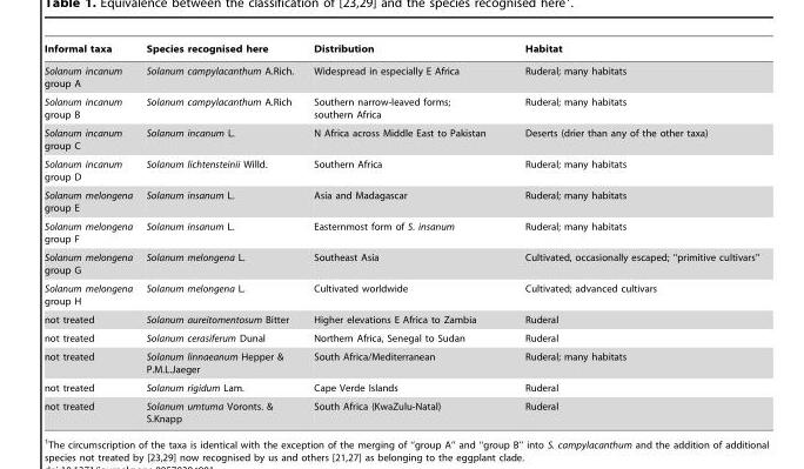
<table><thead><tr><td>Informal taxa</td><td>Species recognised here</td><td>Distribution</td><td>Habitat</td></tr></thead><tbody><tr><td>Solanum incanum group A</td><td>Solanum campylacanthum A.Rich.</td><td>Widespread in especially E Africa</td><td>Ruderal; many habitats</td></tr><tr><td>Solanum incanum group B</td><td>Solanum campylacanthum A.Rich</td><td>Southern narrow-leaved forms; southern Africa</td><td>Ruderal; many habitats</td></tr><tr><td>Solanum incanum group C</td><td>Solanum incanum L.</td><td>N Africa across Middle East to Pakistan</td><td>Deserts (drier than any of the other taxa)</td></tr><tr><td>Solanum incanum group D</td><td>Solanum lichtensteinii Willd.</td><td>Southern Africa</td><td>Ruderal; many habitats</td></tr><tr><td>Solanum melongena group E</td><td>Solanum insanum L.</td><td>Asia and Madagascar</td><td>Ruderal; many habitats</td></tr><tr><td>Solanum melongena group F</td><td>Solanum insanum L.</td><td>Easternmost form of S. insanum</td><td>Ruderal; many habitats</td></tr><tr><td>Solanum melongena group G</td><td>Solanum melongena L.</td><td>Southeast Asia</td><td>Cultivated, occasionally escaped; ‘‘primitive cultivars’’</td></tr><tr><td>Solanum melongena group H</td><td>Solanum melongena L.</td><td>Cultivated worldwide</td><td>Cultivated; advanced cultivars</td></tr><tr><td>not treated</td><td>Solanum aureitomentosum Bitter</td><td>Higher elevations E Africa to Zambia</td><td>Ruderal</td></tr><tr><td>not treated</td><td>Solanum cerasiferum Dunal</td><td>Northern Africa, Senegal to Sudan</td><td>Ruderal</td></tr><tr><td>not treated</td><td>Solanum linnaeanum Hepper &amp; P.M.L.Jaeger</td><td>South Africa/Mediterranean</td><td>Ruderal; many habitats</td></tr><tr><td>not treated</td><td>Solanum rigidum Lam.</td><td>Cape Verde Islands</td><td>Ruderal</td></tr><tr><td>not treated</td><td>Solanum umtuma Voronts. &amp; S.Knapp</td><td>South Africa (KwaZulu-Natal)</td><td>Ruderal</td></tr></tbody></table>